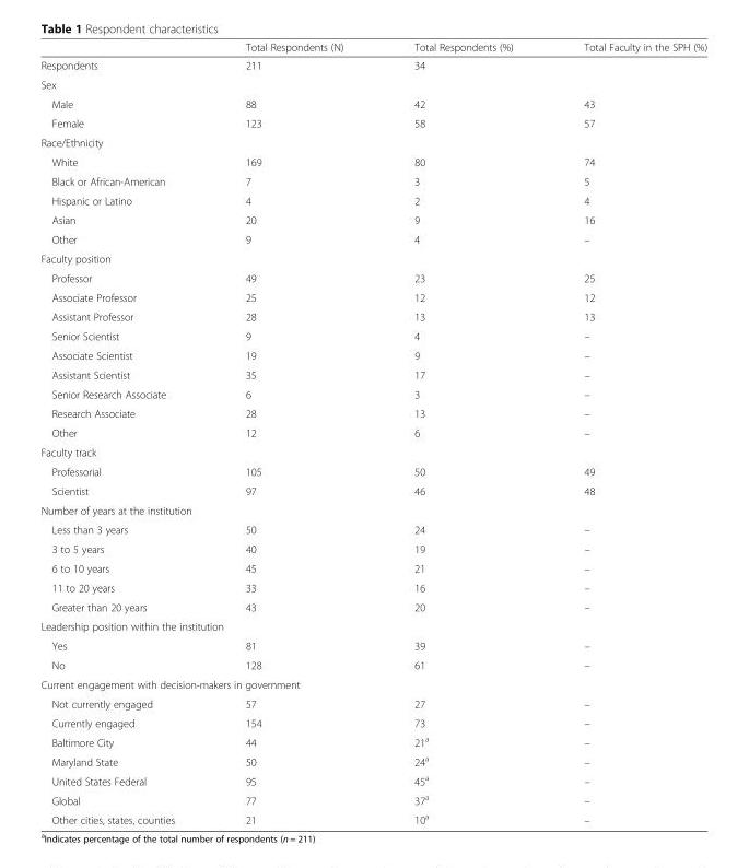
<table><thead><tr><td></td><td>Total Respondents (N)</td><td>Total Respondents (%)</td><td>Total Faculty in the SPH (%)</td></tr></thead><tbody><tr><td>Respondents</td><td>211</td><td>34</td><td></td></tr><tr><td colspan="4">Sex</td></tr><tr><td>Male</td><td>88</td><td>42</td><td>43</td></tr><tr><td>Female</td><td>123</td><td>58</td><td>57</td></tr><tr><td colspan="4">Race/Ethnicity</td></tr><tr><td>White</td><td>169</td><td>80</td><td>74</td></tr><tr><td>Black or African-American</td><td>7</td><td>3</td><td>5</td></tr><tr><td>Hispanic or Latino</td><td>4</td><td>2</td><td>4</td></tr><tr><td>Asian</td><td>20</td><td>9</td><td>16</td></tr><tr><td>Other</td><td>9</td><td>4</td><td>–</td></tr><tr><td colspan="4">Faculty position</td></tr><tr><td>Professor</td><td>49</td><td>23</td><td>25</td></tr><tr><td>Associate Professor</td><td>25</td><td>12</td><td>12</td></tr><tr><td>Assistant Professor</td><td>28</td><td>13</td><td>13</td></tr><tr><td>Senior Scientist</td><td>9</td><td>4</td><td>–</td></tr><tr><td>Associate Scientist</td><td>19</td><td>9</td><td>–</td></tr><tr><td>Assistant Scientist</td><td>35</td><td>17</td><td>–</td></tr><tr><td>Senior Research Associate</td><td>6</td><td>3</td><td>–</td></tr><tr><td>Research Associate</td><td>28</td><td>13</td><td>–</td></tr><tr><td>Other</td><td>12</td><td>6</td><td>–</td></tr><tr><td colspan="4">Faculty track</td></tr><tr><td>Professorial</td><td>105</td><td>50</td><td>49</td></tr><tr><td>Scientist</td><td>97</td><td>46</td><td>48</td></tr><tr><td colspan="4">Number of years at the institution</td></tr><tr><td>Less than 3 years</td><td>50</td><td>24</td><td>–</td></tr><tr><td>3 to 5 years</td><td>40</td><td>19</td><td>–</td></tr><tr><td>6 to 10 years</td><td>45</td><td>21</td><td>–</td></tr><tr><td>11 to 20 years</td><td>33</td><td>16</td><td>–</td></tr><tr><td>Greater than 20 years</td><td>43</td><td>20</td><td>–</td></tr><tr><td colspan="4">Leadership position within the institution</td></tr><tr><td>Yes</td><td>81</td><td>39</td><td>–</td></tr><tr><td>No</td><td>128</td><td>61</td><td>–</td></tr><tr><td colspan="4">Current engagement with decision-makers in government</td></tr><tr><td>Not currently engaged</td><td>57</td><td>27</td><td>–</td></tr><tr><td>Currently engaged</td><td>154</td><td>73</td><td>–</td></tr><tr><td>Baltimore City</td><td>44</td><td>21<sup>a</sup></td><td>–</td></tr><tr><td>Maryland State</td><td>50</td><td>24<sup>a</sup></td><td>–</td></tr><tr><td>United States Federal</td><td>95</td><td>45<sup>a</sup></td><td>–</td></tr><tr><td>Global</td><td>77</td><td>37<sup>a</sup></td><td>–</td></tr><tr><td>Other cities, states, counties</td><td>21</td><td>10<sup>a</sup></td><td>–</td></tr></tbody></table>